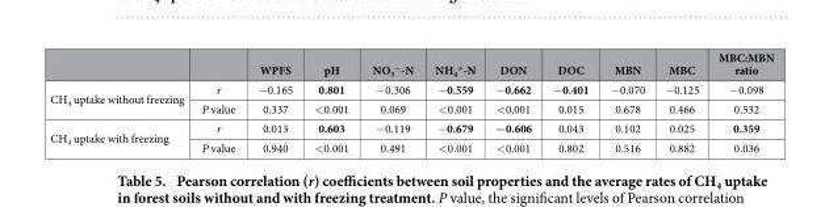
<table><thead><tr><td></td><td></td><td>WPFS</td><td>pH</td><td>NO<sub>3</sub> <sup>−</sup>-N</td><td>NH<sub>4</sub> <sup>+</sup>-N</td><td>DON</td><td>DOC</td><td>MBN</td><td>MBC</td><td>MBC:MBN ratio</td></tr></thead><tbody><tr><td rowspan="2">CH<sub>4</sub> uptake without freezing</td><td>r</td><td>− 0.165</td><td>0.801</td><td>− 0.306</td><td>− 0.559</td><td>− 0.662</td><td>− 0.401</td><td>− 0.070</td><td>− 0.125</td><td>− 0.098</td></tr><tr><td>P value</td><td>0.337</td><td>&lt; 0.001</td><td>0.069</td><td>&lt; 0.001</td><td>&lt; 0.001</td><td>0.015</td><td>0.678</td><td>0.466</td><td>0.532</td></tr><tr><td rowspan="2">CH<sub>4</sub> uptake with freezing</td><td>r</td><td>0.013</td><td>0.603</td><td>− 0.119</td><td>− 0.679</td><td>−0.606</td><td>0.043</td><td>0.102</td><td>0.025</td><td>0.359</td></tr><tr><td>P value</td><td>0.940</td><td>&lt; 0.001</td><td>0.491</td><td>&lt; 0.001</td><td>&lt; 0.001</td><td>0.802</td><td>0.516</td><td>0.882</td><td>0.036</td></tr></tbody></table>